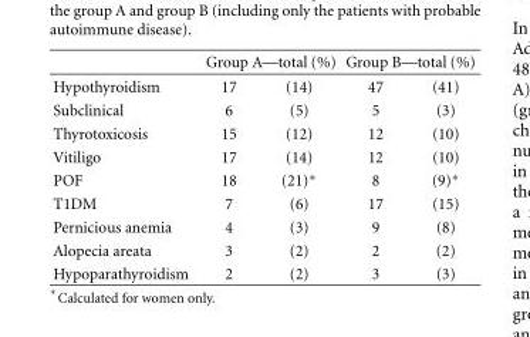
<table><thead><tr><td rowspan="2">Hypothyroidism</td><td colspan="2">Group A—total (%)</td><td colspan="2">Group B—total (%)</td></tr><tr><td>17</td><td>(14)</td><td>47</td><td>(41)</td></tr></thead><tbody><tr><td>Subclinical</td><td>6</td><td>(5)</td><td>5</td><td>(3)</td></tr><tr><td>Thyrotoxicosis</td><td>15</td><td>(12)</td><td>12</td><td>(10)</td></tr><tr><td>Vitiligo</td><td>17</td><td>(14)</td><td>12</td><td>(10)</td></tr><tr><td>POF</td><td>18</td><td>(21)∗</td><td>8</td><td>(9)∗</td></tr><tr><td>T1DM</td><td>7</td><td>(6)</td><td>17</td><td>(15)</td></tr><tr><td>Pernicious anemia</td><td>4</td><td>(3)</td><td>9</td><td>(8)</td></tr><tr><td>Alopecia areata</td><td>3</td><td>(2)</td><td>2</td><td>(2)</td></tr><tr><td>Hypoparathyroidism</td><td>2</td><td>(2)</td><td>3</td><td>(3)</td></tr></tbody></table>